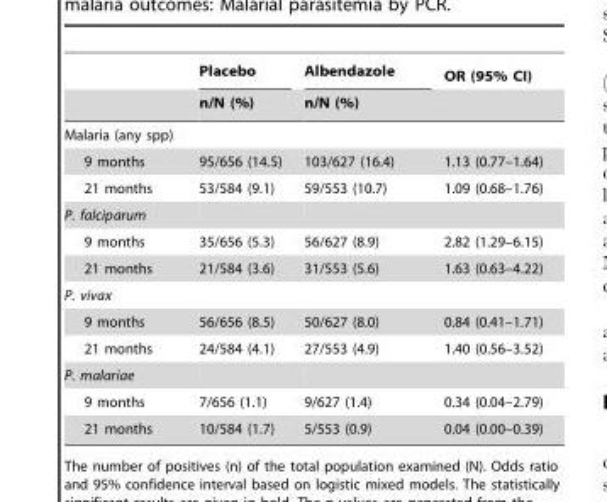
<table><thead><tr><td rowspan="2"></td><td rowspan="2">Placebo n/N (%)</td><td rowspan="2">Albendazole n/N (%)</td><td rowspan="2">OR (95% CI)</td></tr><tr></tr></thead><tbody><tr><td colspan="4">Malaria (any spp)</td></tr><tr><td>9 months</td><td>95/656 (14.5)</td><td>103/627 (16.4)</td><td>1.13 (0.77–1.64)</td></tr><tr><td>21 months</td><td>53/584 (9.1)</td><td>59/553 (10.7)</td><td>1.09 (0.68–1.76)</td></tr><tr><td colspan="4">P. falciparum</td></tr><tr><td>9 months</td><td>35/656 (5.3)</td><td>56/627 (8.9)</td><td>2.82 (1.29–6.15)</td></tr><tr><td>21 months</td><td>21/584 (3.6)</td><td>31/553 (5.6)</td><td>1.63 (0.63–4.22)</td></tr><tr><td colspan="4">P. vivax</td></tr><tr><td>9 months</td><td>56/656 (8.5)</td><td>50/627 (8.0)</td><td>0.84 (0.41–1.71)</td></tr><tr><td>21 months</td><td>24/584 (4.1)</td><td>27/553 (4.9)</td><td>1.40 (0.56–3.52)</td></tr><tr><td colspan="4">P. malariae</td></tr><tr><td>9 months</td><td>7/656 (1.1)</td><td>9/627 (1.4)</td><td>0.34 (0.04–2.79)</td></tr><tr><td>21 months</td><td>10/584 (1.7)</td><td>5/553 (0.9)</td><td>0.04 (0.00–0.39)</td></tr></tbody></table>